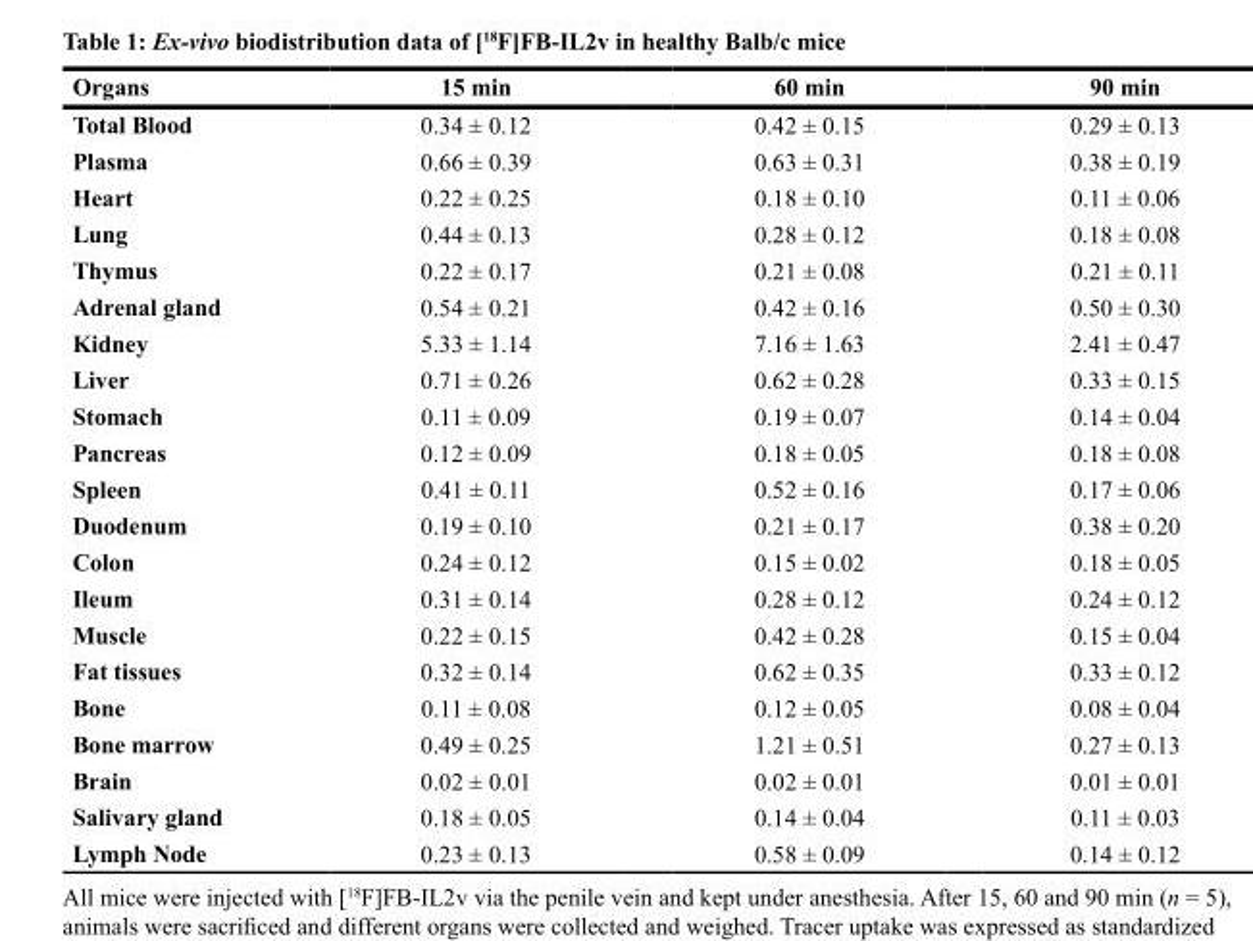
<table><thead><tr><td>Organs</td><td>15 min</td><td>60 min</td><td>90 min</td></tr></thead><tbody><tr><td>Total Blood</td><td>0.34 ± 0.12</td><td>0.42 ± 0.15</td><td>0.29 ± 0.13</td></tr><tr><td>Plasma</td><td>0.66 ± 0.39</td><td>0.63 ± 0.31</td><td>0.38 ± 0.19</td></tr><tr><td>Heart</td><td>0.22 ± 0.25</td><td>0.18 ± 0.10</td><td>0.11 ± 0.06</td></tr><tr><td>Lung</td><td>0.44 ± 0.13</td><td>0.28 ± 0.12</td><td>0.18 ± 0.08</td></tr><tr><td>Thymus</td><td>0.22 ± 0.17</td><td>0.21 ± 0.08</td><td>0.21 ± 0.11</td></tr><tr><td>Adrenal gland</td><td>0.54 ± 0.21</td><td>0.42 ± 0.16</td><td>0.50 ± 0.30</td></tr><tr><td>Kidney</td><td>5.33 ± 1.14</td><td>7.16 ± 1.63</td><td>2.41 ± 0.47</td></tr><tr><td>Liver</td><td>0.71 ± 0.26</td><td>0.62 ± 0.28</td><td>0.33 ± 0.15</td></tr><tr><td>Stomach</td><td>0.11 ± 0.09</td><td>0.19 ± 0.07</td><td>0.14 ± 0.04</td></tr><tr><td>Pancreas</td><td>0.12 ± 0.09</td><td>0.18 ± 0.05</td><td>0.18 ± 0.08</td></tr><tr><td>Spleen</td><td>0.41 ± 0.11</td><td>0.52 ± 0.16</td><td>0.17 ± 0.06</td></tr><tr><td>Duodenum</td><td>0.19 ± 0.10</td><td>0.21 ± 0.17</td><td>0.38 ± 0.20</td></tr><tr><td>Colon</td><td>0.24 ± 0.12</td><td>0.15 ± 0.02</td><td>0.18 ± 0.05</td></tr><tr><td>Ileum</td><td>0.31 ± 0.14</td><td>0.28 ± 0.12</td><td>0.24 ± 0.12</td></tr><tr><td>Muscle</td><td>0.22 ± 0.15</td><td>0.42 ± 0.28</td><td>0.15 ± 0.04</td></tr><tr><td>Fat tissues</td><td>0.32 ± 0.14</td><td>0.62 ± 0.35</td><td>0.33 ± 0.12</td></tr><tr><td>Bone</td><td>0.11 ± 0.08</td><td>0.12 ± 0.05</td><td>0.08 ± 0.04</td></tr><tr><td>Bone marrow</td><td>0.49 ± 0.25</td><td>1.21 ± 0.51</td><td>0.27 ± 0.13</td></tr><tr><td>Brain</td><td>0.02 ± 0.01</td><td>0.02 ± 0.01</td><td>0.01 ± 0.01</td></tr><tr><td>Salivary gland</td><td>0.18 ± 0.05</td><td>0.14 ± 0.04</td><td>0.11 ± 0.03</td></tr><tr><td>Lymph Node</td><td>0.23 ± 0.13</td><td>0.58 ± 0.09</td><td>0.14 ± 0.12</td></tr></tbody></table>